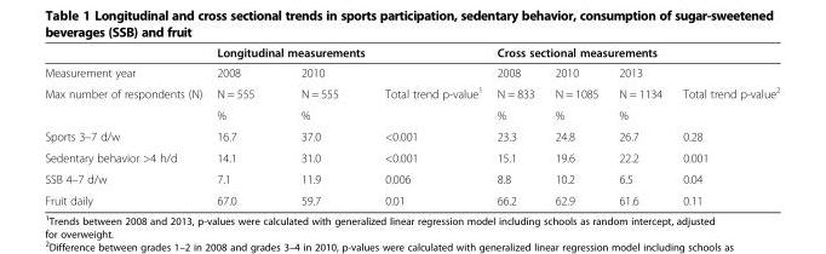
<table><thead><tr><td rowspan="2">Measurement year</td><td colspan="2">Longitudinal measurements</td><td rowspan="2"></td><td colspan="3">Cross sectional measurements</td><td rowspan="2"></td></tr><tr><td>2008</td><td>2010</td><td>2008</td><td>2010</td><td>2013</td></tr></thead><tbody><tr><td rowspan="2">Max number of respondents (N)</td><td>N = 555</td><td>N = 555</td><td>Total trend p-value<sup>1</sup></td><td>N = 833</td><td>N = 1085</td><td>N = 1134</td><td>Total trend p-value<sup>2</sup></td></tr><tr><td>%</td><td>%</td><td></td><td>%</td><td>%</td><td>%</td><td></td></tr><tr><td>Sports 3–7 d/w</td><td>16.7</td><td>37.0</td><td>&lt;0.001</td><td>23.3</td><td>24.8</td><td>26.7</td><td>0.28</td></tr><tr><td>Sedentary behavior &gt;4 h/d</td><td>14.1</td><td>31.0</td><td>&lt;0.001</td><td>15.1</td><td>19.6</td><td>22.2</td><td>0.001</td></tr><tr><td>SSB 4–7 d/w</td><td>7.1</td><td>11.9</td><td>0.006</td><td>8.8</td><td>10.2</td><td>6.5</td><td>0.04</td></tr><tr><td>Fruit daily</td><td>67.0</td><td>59.7</td><td>0.01</td><td>66.2</td><td>62.9</td><td>61.6</td><td>0.11</td></tr></tbody></table>